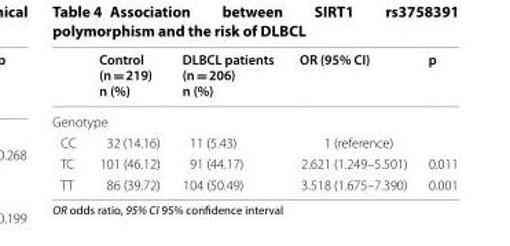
<table><thead><tr><td></td><td>Control (n = 219) n (%)</td><td>DLBCL patients (n = 206) n (%)</td><td>OR (95% CI)</td><td>p</td></tr></thead><tbody><tr><td colspan="5">Genotype</td></tr><tr><td>CC</td><td>32 (14.16)</td><td>11 (5.43)</td><td>1 (reference)</td><td></td></tr><tr><td>TC</td><td>101 (46.12)</td><td>91 (44.17)</td><td>2.621 (1.249–5.501)</td><td>0.011</td></tr><tr><td>TT</td><td>86 (39.72)</td><td>104 (50.49)</td><td>3.518 (1.675–7.390)</td><td>0.001</td></tr></tbody></table>